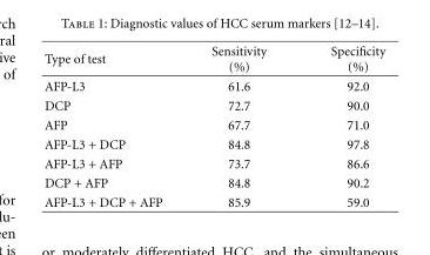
<table><thead><tr><td>Type of test</td><td>Sensitivity (%)</td><td>Specificity (%)</td></tr></thead><tbody><tr><td>AFP-L3</td><td>61.6</td><td>92.0</td></tr><tr><td>DCP</td><td>72.7</td><td>90.0</td></tr><tr><td>AFP</td><td>67.7</td><td>71.0</td></tr><tr><td>AFP-L3 + DCP</td><td>84.8</td><td>97.8</td></tr><tr><td>AFP-L3 + AFP</td><td>73.7</td><td>86.6</td></tr><tr><td>DCP + AFP</td><td>84.8</td><td>90.2</td></tr><tr><td>AFP-L3 + DCP + AFP</td><td>85.9</td><td>59.0</td></tr></tbody></table>